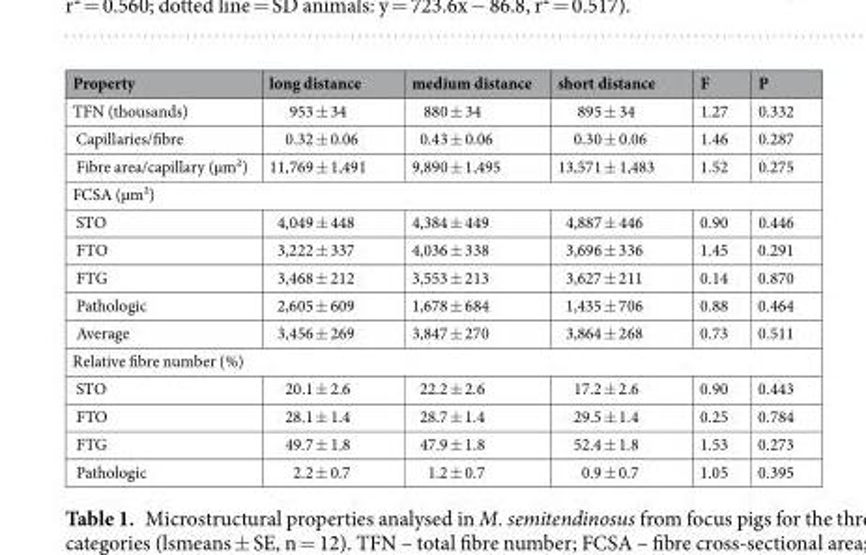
<table><thead><tr><td>Property</td><td>long distance</td><td>medium distance</td><td>short distance</td><td>F</td><td>P</td></tr></thead><tbody><tr><td>TFN (thousands)</td><td>953 ± 34</td><td>880 ± 34</td><td>895 ± 34</td><td>1.27</td><td>0.332</td></tr><tr><td>Capillaries/fibre</td><td>0.32 ± 0.06</td><td>0.43 ± 0.06</td><td>0.30 ± 0.06</td><td>1.46</td><td>0.287</td></tr><tr><td>Fibre area/capillary (µm²)</td><td>11,769 ± 1,491</td><td>9,890 ± 1,495</td><td>13,571 ± 1,483</td><td>1.52</td><td>0.275</td></tr><tr><td colspan="6">FCSA (µm²)</td></tr><tr><td>STO</td><td>4,049 ± 448</td><td>4,384 ± 449</td><td>4,887 ± 446</td><td>0.90</td><td>0.446</td></tr><tr><td>FTO</td><td>3,222 ± 337</td><td>4,036 ± 338</td><td>3,696 ± 336</td><td>1.45</td><td>0.291</td></tr><tr><td>FTG</td><td>3,468 ± 212</td><td>3,553 ± 213</td><td>3,627 ± 211</td><td>0.14</td><td>0.870</td></tr><tr><td>Pathologic</td><td>2,605 ± 609</td><td>1,678 ± 684</td><td>1,435 ± 706</td><td>0.88</td><td>0.464</td></tr><tr><td>Average</td><td>3,456 ± 269</td><td>3,847 ± 270</td><td>3,864 ± 268</td><td>0.73</td><td>0.511</td></tr><tr><td colspan="6">Relative fibre number (%)</td></tr><tr><td>STO</td><td>20.1 ± 2.6</td><td>22.2 ± 2.6</td><td>17.2 ± 2.6</td><td>0.90</td><td>0.443</td></tr><tr><td>FTO</td><td>28.1 ± 1.4</td><td>28.7 ± 1.4</td><td>29.5 ± 1.4</td><td>0.25</td><td>0.784</td></tr><tr><td>FTG</td><td>49.7 ± 1.8</td><td>47.9 ± 1.8</td><td>52.4 ± 1.8</td><td>1.53</td><td>0.273</td></tr><tr><td>Pathologic</td><td>2.2 ± 0.7</td><td>1.2 ± 0.7</td><td>0.9 ± 0.7</td><td>1.05</td><td>0.395</td></tr></tbody></table>